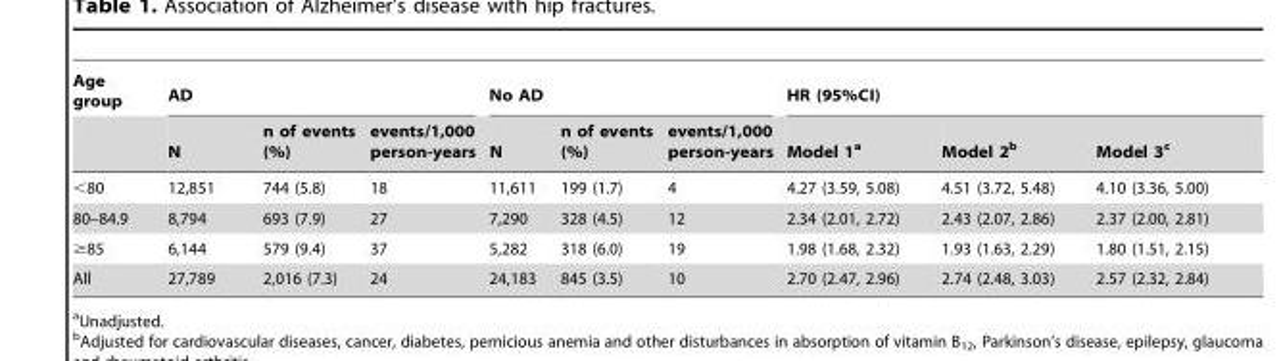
<table><thead><tr><td rowspan="2">Age group</td><td colspan="3">AD</td><td colspan="3">No AD</td><td colspan="3">HR (95%CI)</td></tr><tr><td>N</td><td>n of events (%)</td><td>events/1,000 person-years</td><td>N</td><td>n of events (%)</td><td>events/1,000 person-years</td><td>Model 1<sup>a</sup></td><td>Model 2<sup>b</sup></td><td>Model 3<sup>c</sup></td></tr></thead><tbody><tr><td>&lt;80</td><td>12,851</td><td>744 (5.8)</td><td>18</td><td>11,611</td><td>199 (1.7)</td><td>4</td><td>4.27 (3.59, 5.08)</td><td>4.51 (3.72, 5.48)</td><td>4.10 (3.36, 5.00)</td></tr><tr><td>80–84.9</td><td>8,794</td><td>693 (7.9)</td><td>27</td><td>7,290</td><td>328 (4.5)</td><td>12</td><td>2.34 (2.01, 2.72)</td><td>2.43 (2.07, 2.86)</td><td>2.37 (2.00, 2.81)</td></tr><tr><td>≥85</td><td>6,144</td><td>579 (9.4)</td><td>37</td><td>5,282</td><td>318 (6.0)</td><td>19</td><td>1.98 (1.68, 2.32)</td><td>1.93 (1.63, 2.29)</td><td>1.80 (1.51, 2.15)</td></tr><tr><td>All</td><td>27,789</td><td>2,016 (7.3)</td><td>24</td><td>24,183</td><td>845 (3.5)</td><td>10</td><td>2.70 (2.47, 2.96)</td><td>2.74 (2.48, 3.03)</td><td>2.57 (2.32, 2.84)</td></tr></tbody></table>